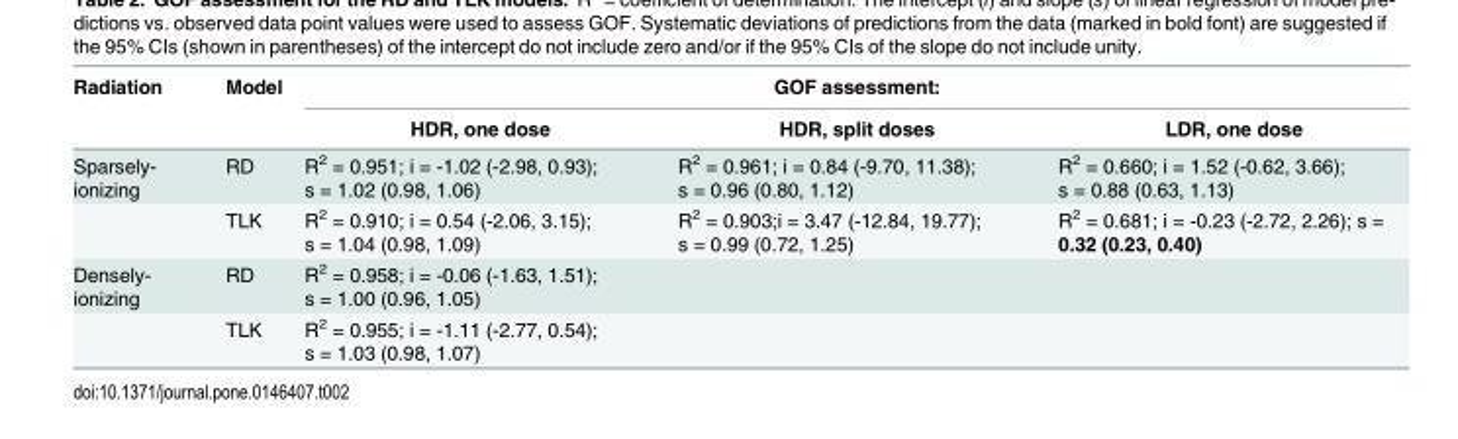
<table><thead><tr><td rowspan="2">Radiation</td><td rowspan="2">Model</td><td colspan="3">GOF assessment:</td></tr><tr><td>HDR, one dose</td><td>HDR, split doses</td><td>LDR, one dose</td></tr></thead><tbody><tr><td rowspan="2">Sparsely- ionizing</td><td>RD</td><td>R<sup>2</sup> = 0.951; i = -1.02 (-2.98, 0.93); s = 1.02 (0.98, 1.06)</td><td>R<sup>2</sup> = 0.961; i = 0.84 (-9.70, 11.38); s = 0.96 (0.80, 1.12)</td><td>R<sup>2</sup> = 0.660; i = 1.52 (-0.62, 3.66); s = 0.88 (0.63, 1.13)</td></tr><tr><td>TLK</td><td>R<sup>2</sup> = 0.910; i = 0.54 (-2.06, 3.15); s = 1.04 (0.98, 1.09)</td><td>R<sup>2</sup> = 0.903;i = 3.47 (-12.84, 19.77); s = 0.99 (0.72, 1.25)</td><td>R<sup>2</sup> = 0.681; i = -0.23 (-2.72, 2.26); s = 0.32 (0.23, 0.40)</td></tr><tr><td rowspan="2">Densely- ionizing</td><td>RD</td><td>R<sup>2</sup> = 0.958; i = -0.06 (-1.63, 1.51); s = 1.00 (0.96, 1.05)</td><td></td><td></td></tr><tr><td>TLK</td><td>R<sup>2</sup> = 0.955; i = -1.11 (-2.77, 0.54); s = 1.03 (0.98, 1.07)</td><td></td><td></td></tr></tbody></table>